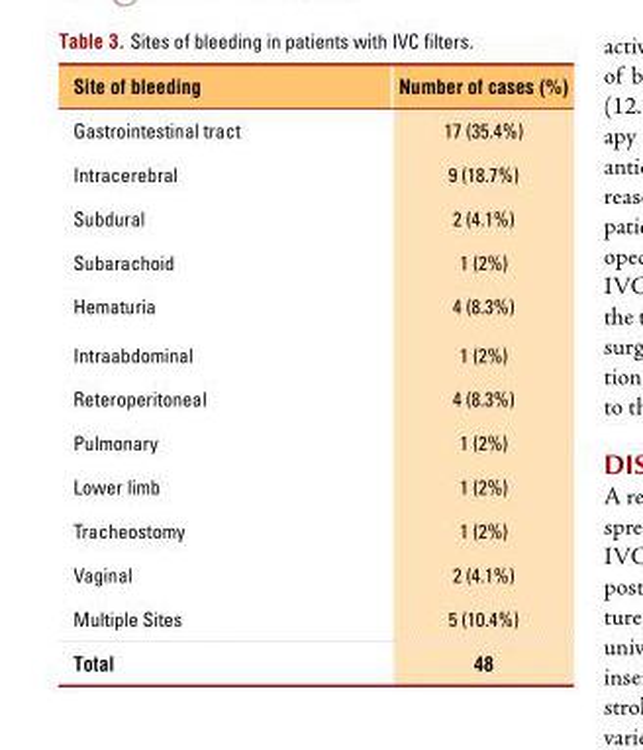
<table><thead><tr><td>Site of bleeding</td><td>Number of cases (%)</td></tr></thead><tbody><tr><td>Gastrointestinal tract</td><td>17 (35.4%)</td></tr><tr><td>Intracerebral</td><td>9 (18.7%)</td></tr><tr><td>Subdural</td><td>2 (4.1%)</td></tr><tr><td>Subarachoid</td><td>1 (2%)</td></tr><tr><td>Hematuria</td><td>4 (8.3%)</td></tr><tr><td>Intraabdominal</td><td>1 (2%)</td></tr><tr><td>Reteroperitoneal</td><td>4 (8.3%)</td></tr><tr><td>Pulmonary</td><td>1 (2%)</td></tr><tr><td>Lower limb</td><td>1 (2%)</td></tr><tr><td>Tracheostomy</td><td>1 (2%)</td></tr><tr><td>Vaginal</td><td>2 (4.1%)</td></tr><tr><td>Multiple Sites</td><td>5 (10.4%)</td></tr><tr><td>Total</td><td>48</td></tr></tbody></table>